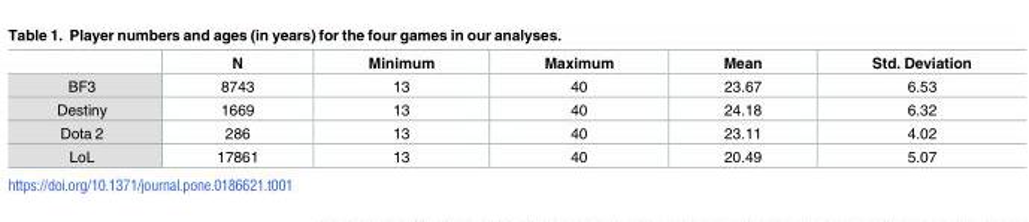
<table><thead><tr><td></td><td>N</td><td>Minimum</td><td>Maximum</td><td>Mean</td><td>Std. Deviation</td></tr></thead><tbody><tr><td>BF3</td><td>8743</td><td>13</td><td>40</td><td>23.67</td><td>6.53</td></tr><tr><td>Destiny</td><td>1669</td><td>13</td><td>40</td><td>24.18</td><td>6.32</td></tr><tr><td>Dota 2</td><td>286</td><td>13</td><td>40</td><td>23.11</td><td>4.02</td></tr><tr><td>LoL</td><td>17861</td><td>13</td><td>40</td><td>20.49</td><td>5.07</td></tr></tbody></table>